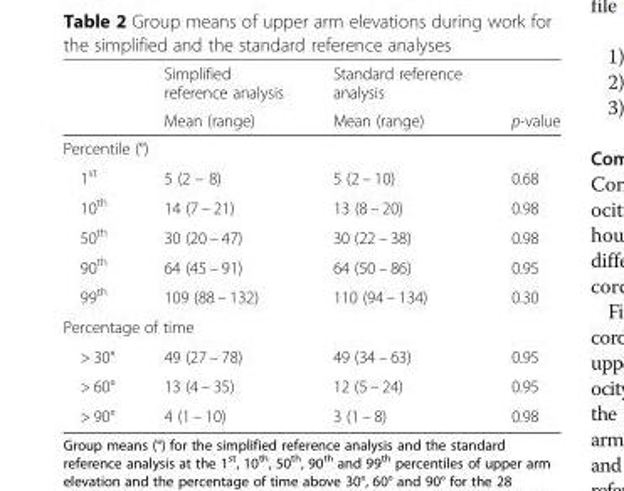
<table><thead><tr><td rowspan="2"></td><td rowspan="2">Simplified reference analysis Mean (range)</td><td rowspan="2">Standard reference analysis Mean (range)</td><td rowspan="2">p-value</td></tr><tr></tr></thead><tbody><tr><td colspan="4">Percentile (°)</td></tr><tr><td>1<sup>st</sup></td><td>5 (2 – 8)</td><td>5 (2 – 10)</td><td>0.68</td></tr><tr><td>10<sup>th</sup></td><td>14 (7 – 21)</td><td>13 (8 – 20)</td><td>0.98</td></tr><tr><td>50<sup>th</sup></td><td>30 (20 – 47)</td><td>30 (22 – 38)</td><td>0.98</td></tr><tr><td>90<sup>th</sup></td><td>64 (45 – 91)</td><td>64 (50 – 86)</td><td>0.95</td></tr><tr><td>99<sup>th</sup></td><td>109 (88 – 132)</td><td>110 (94 – 134)</td><td>0.30</td></tr><tr><td colspan="4">Percentage of time</td></tr><tr><td>&gt; 30°</td><td>49 (27 – 78)</td><td>49 (34 – 63)</td><td>0.95</td></tr><tr><td>&gt; 60°</td><td>13 (4 – 35)</td><td>12 (5 – 24)</td><td>0.95</td></tr><tr><td>&gt; 90°</td><td>4 (1 – 10)</td><td>3 (1 – 8)</td><td>0.98</td></tr></tbody></table>